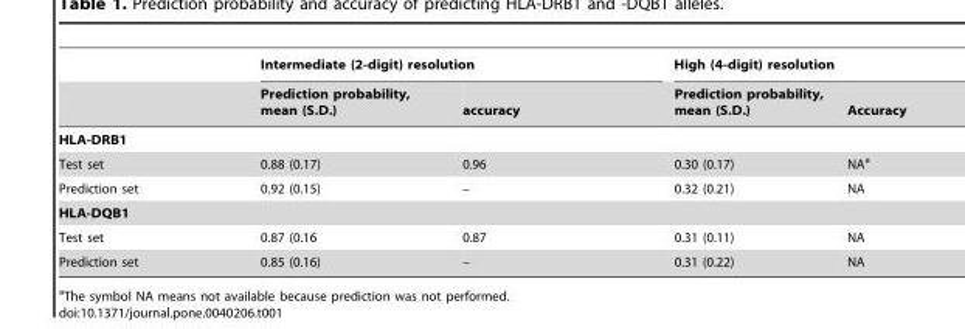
<table><thead><tr><td rowspan="2"></td><td colspan="2">Intermediate (2-digit) resolution</td><td colspan="2">High (4-digit) resolution</td></tr><tr><td>Prediction probability, mean (S.D.)</td><td>accuracy</td><td>Prediction probability, mean (S.D.)</td><td>Accuracy</td></tr></thead><tbody><tr><td colspan="5">HLA-DRB1</td></tr><tr><td>Test set</td><td>0.88 (0.17)</td><td>0.96</td><td>0.30 (0.17)</td><td>NA<sup>a</sup></td></tr><tr><td>Prediction set</td><td>0.92 (0.15)</td><td>–</td><td>0.32 (0.21)</td><td>NA</td></tr><tr><td colspan="5">HLA-DQB1</td></tr><tr><td>Test set</td><td>0.87 (0.16</td><td>0.87</td><td>0.31 (0.11)</td><td>NA</td></tr><tr><td>Prediction set</td><td>0.85 (0.16)</td><td>–</td><td>0.31 (0.22)</td><td>NA</td></tr></tbody></table>